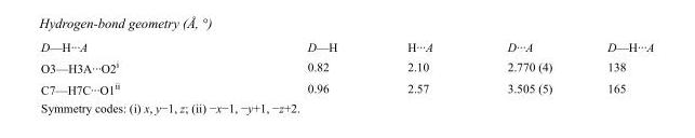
<table><tbody><tr><td>D—H···A</td><td>D—H</td><td>H···A</td><td>D···A</td><td>D—H···A</td></tr><tr><td>O3—H3A···O2<sup>i</sup></td><td>0.82</td><td>2.10</td><td>2.770 (4)</td><td>138</td></tr><tr><td>C7—H7C···O1<sup>ii</sup></td><td>0.96</td><td>2.57</td><td>3.505 (5)</td><td>165</td></tr></tbody></table>